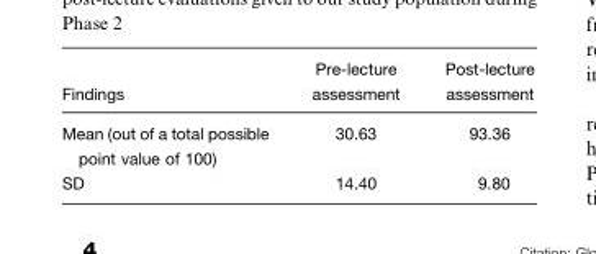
<table><thead><tr><td>Findings</td><td>Pre-lecture assessment</td><td>Post-lecture assessment</td></tr></thead><tbody><tr><td>Mean (out of a total possible point value of 100)</td><td>30.63</td><td>93.36</td></tr><tr><td>SD</td><td>14.40</td><td>9.80</td></tr></tbody></table>